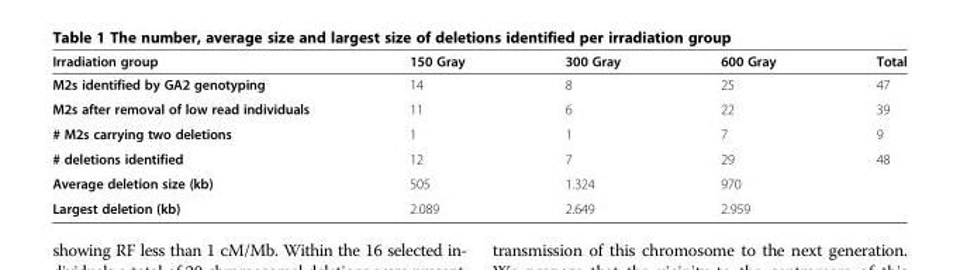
<table><thead><tr><td>Irradiation group</td><td>150 Gray</td><td>300 Gray</td><td>600 Gray</td><td>Total</td></tr></thead><tbody><tr><td>M2s identified by GA2 genotyping</td><td>14</td><td>8</td><td>25</td><td>47</td></tr><tr><td>M2s after removal of low read individuals</td><td>11</td><td>6</td><td>22</td><td>39</td></tr><tr><td># M2s carrying two deletions</td><td>1</td><td>1</td><td>7</td><td>9</td></tr><tr><td># deletions identified</td><td>12</td><td>7</td><td>29</td><td>48</td></tr><tr><td>Average deletion size (kb)</td><td>505</td><td>1.324</td><td>970</td><td></td></tr><tr><td>Largest deletion (kb)</td><td>2.089</td><td>2.649</td><td>2.959</td><td></td></tr></tbody></table>